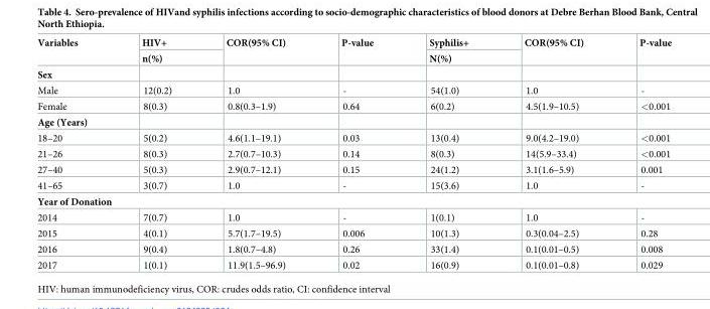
<table><thead><tr><td rowspan="2">Variables</td><td rowspan="2">HIV+ n(%)</td><td rowspan="2">COR(95% CI)</td><td rowspan="2">P-value</td><td rowspan="2">Syphilis+ N(%)</td><td rowspan="2">COR(95% CI)</td><td rowspan="2">P-value</td></tr><tr></tr></thead><tbody><tr><td colspan="7">Sex</td></tr><tr><td>Male</td><td>12(0.2)</td><td>1.0</td><td>-</td><td>54(1.0)</td><td>1.0</td><td>-</td></tr><tr><td>Female</td><td>8(0.3)</td><td>0.8(0.3–1.9)</td><td>0.64</td><td>6(0.2)</td><td>4.5(1.9–10.5)</td><td>&lt;0.001</td></tr><tr><td colspan="7">Age (Years)</td></tr><tr><td>18–20</td><td>5(0.2)</td><td>4.6(1.1–19.1)</td><td>0.03</td><td>13(0.4)</td><td>9.0(4.2–19.0)</td><td>&lt;0.001</td></tr><tr><td>21–26</td><td>8(0.3)</td><td>2.7(0.7–10.3)</td><td>0.14</td><td>8(0.3)</td><td>14(5.9–33.4)</td><td>&lt;0.001</td></tr><tr><td>27–40</td><td>5(0.3)</td><td>2.9(0.7–12.1)</td><td>0.15</td><td>24(1.2)</td><td>3.1(1.6–5.9)</td><td>0.001</td></tr><tr><td>41–65</td><td>3(0.7)</td><td>1.0</td><td>-</td><td>15(3.6)</td><td>1.0</td><td>-</td></tr><tr><td colspan="7">Year of Donation</td></tr><tr><td>2014</td><td>7(0.7)</td><td>1.0</td><td>-</td><td>1(0.1)</td><td>1.0</td><td>-</td></tr><tr><td>2015</td><td>4(0.1)</td><td>5.7(1.7–19.5)</td><td>0.006</td><td>10(1.3)</td><td>0.3(0.04–2.5)</td><td>0.28</td></tr><tr><td>2016</td><td>9(0.4)</td><td>1.8(0.7–4.8)</td><td>0.26</td><td>33(1.4)</td><td>0.1(0.01–0.5)</td><td>0.008</td></tr><tr><td>2017</td><td>1(0.1)</td><td>11.9(1.5–96.9)</td><td>0.02</td><td>16(0.9)</td><td>0.1(0.01–0.8)</td><td>0.029</td></tr></tbody></table>